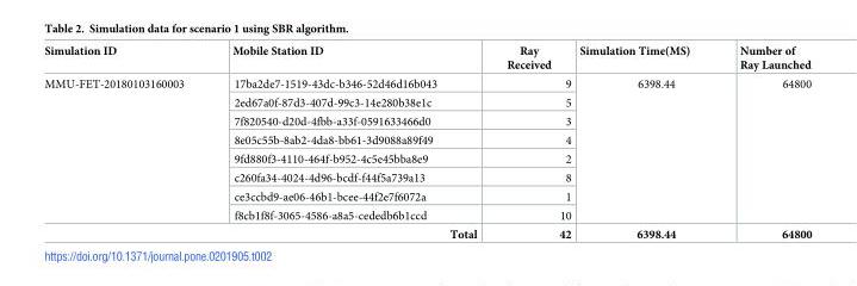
<table><thead><tr><td>Simulation ID</td><td>Mobile Station ID</td><td>Ray Received</td><td>Simulation Time(MS)</td><td>Number of Ray Launched</td></tr></thead><tbody><tr><td rowspan="8">MMU-FET-20180103160003</td><td>17ba2de7-1519-43dc-b346-52d46d16b043</td><td>9</td><td rowspan="8">6398.44</td><td rowspan="8">64800</td></tr><tr><td>2ed67a0f-87d3-407d-99c3-14e280b38e1c</td><td>5</td></tr><tr><td>7f820540-d20d-4fbb-a33f-0591633466d0</td><td>3</td></tr><tr><td>8e05c55b-8ab2-4da8-bb61-3d9088a89f49</td><td>4</td></tr><tr><td>9fd880f3-4110-464f-b952-4c5e45bba8e9</td><td>2</td></tr><tr><td>c260fa34-4024-4d96-bcdf-f44f5a739a13</td><td>8</td></tr><tr><td>ce3ccbd9-ae06-46b1-bcee-44f2e7f6072a</td><td>1</td></tr><tr><td>f8cb1f8f-3065-4586-a8a5-cededb6b1ccd</td><td>10</td></tr><tr><td colspan="2">Total</td><td>42</td><td>6398.44</td><td>64800</td></tr></tbody></table>